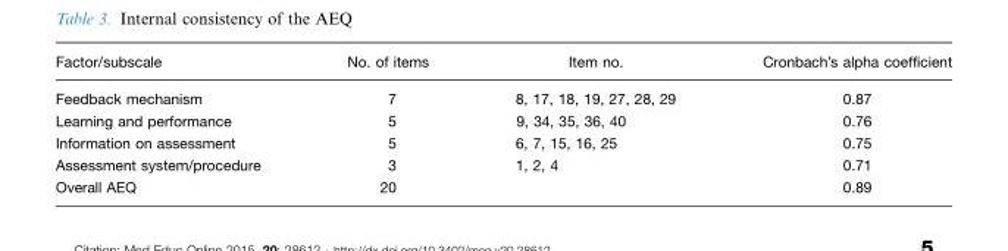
<table><thead><tr><td>Factor/subscale</td><td>No. of items</td><td>Item no.</td><td>Cronbach’s alpha coefficient</td></tr></thead><tbody><tr><td>Feedback mechanism</td><td>7</td><td>8, 17, 18, 19, 27, 28, 29</td><td>0.87</td></tr><tr><td>Learning and performance</td><td>5</td><td>9, 34, 35, 36, 40</td><td>0.76</td></tr><tr><td>Information on assessment</td><td>5</td><td>6, 7, 15, 16, 25</td><td>0.75</td></tr><tr><td>Assessment system/procedure</td><td>3</td><td>1, 2, 4</td><td>0.71</td></tr><tr><td>Overall AEQ</td><td>20</td><td></td><td>0.89</td></tr></tbody></table>